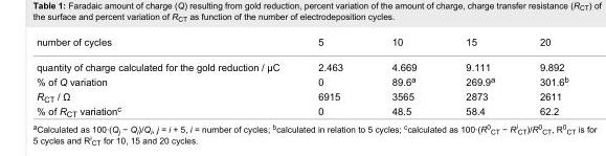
<table><tbody><tr><td>number of cycles</td><td>5</td><td>10</td><td>15</td><td>20</td></tr><tr><td>quantity of charge calculated for the gold reduction / µC</td><td>2.463</td><td>4.669</td><td>9.111</td><td>9.892</td></tr><tr><td>% of Q variation</td><td>0</td><td>89.6<sup>a</sup></td><td>269.9<sup>a</sup></td><td>301.6<sup>b</sup></td></tr><tr><td>R<sub>CT</sub> / Ω</td><td>6915</td><td>3565</td><td>2873</td><td>2611</td></tr><tr><td>% of R<sub>CT</sub> variation<sup>c</sup></td><td>0</td><td>48.5</td><td>58.4</td><td>62.2</td></tr></tbody></table>